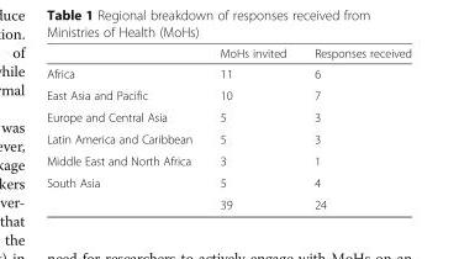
<table><thead><tr><td></td><td>MoHs invited</td><td>Responses received</td></tr></thead><tbody><tr><td>Africa</td><td>11</td><td>6</td></tr><tr><td>East Asia and Pacific</td><td>10</td><td>7</td></tr><tr><td>Europe and Central Asia</td><td>5</td><td>3</td></tr><tr><td>Latin America and Caribbean</td><td>5</td><td>3</td></tr><tr><td>Middle East and North Africa</td><td>3</td><td>1</td></tr><tr><td rowspan="2">South Asia</td><td>5</td><td>4</td></tr><tr><td>39</td><td>24</td></tr></tbody></table>